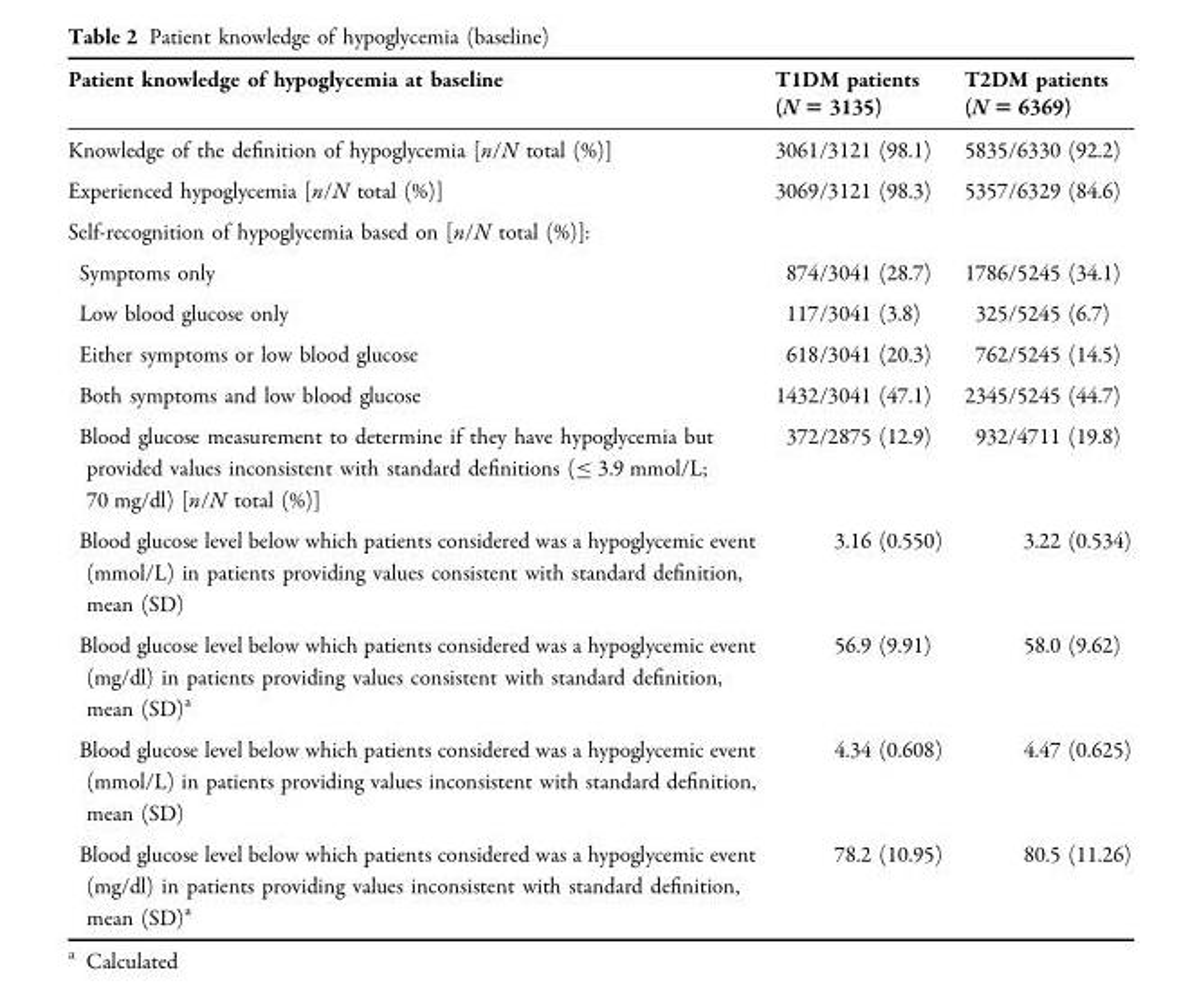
<table><thead><tr><td>Patient knowledge of hypoglycemia at baseline</td><td>T1DM patients (N = 3135)</td><td>T2DM patients (N = 6369)</td></tr></thead><tbody><tr><td>Knowledge of the definition of hypoglycemia [n/N total (%)]</td><td>3061/3121 (98.1)</td><td>5835/6330 (92.2)</td></tr><tr><td>Experienced hypoglycemia [n/N total (%)]</td><td>3069/3121 (98.3)</td><td>5357/6329 (84.6)</td></tr><tr><td colspan="3">Self-recognition of hypoglycemia based on [n/N total (%)]:</td></tr><tr><td>Symptoms only</td><td>874/3041 (28.7)</td><td>1786/5245 (34.1)</td></tr><tr><td>Low blood glucose only</td><td>117/3041 (3.8)</td><td>325/5245 (6.7)</td></tr><tr><td>Either symptoms or low blood glucose</td><td>618/3041 (20.3)</td><td>762/5245 (14.5)</td></tr><tr><td>Both symptoms and low blood glucose</td><td>1432/3041 (47.1)</td><td>2345/5245 (44.7)</td></tr><tr><td>Blood glucose measurement to determine if they have hypoglycemia but provided values inconsistent with standard definitions (≤ 3.9 mmol/L; 70 mg/dl) [n/N total (%)]</td><td>372/2875 (12.9)</td><td>932/4711 (19.8)</td></tr><tr><td>Blood glucose level below which patients considered was a hypoglycemic event (mmol/L) in patients providing values consistent with standard definition, mean (SD)</td><td>3.16 (0.550)</td><td>3.22 (0.534)</td></tr><tr><td>Blood glucose level below which patients considered was a hypoglycemic event (mg/dl) in patients providing values consistent with standard definition, mean (SD)<sup>a</sup></td><td>56.9 (9.91)</td><td>58.0 (9.62)</td></tr><tr><td>Blood glucose level below which patients considered was a hypoglycemic event (mmol/L) in patients providing values inconsistent with standard definition, mean (SD)</td><td>4.34 (0.608)</td><td>4.47 (0.625)</td></tr><tr><td>Blood glucose level below which patients considered was a hypoglycemic event (mg/dl) in patients providing values inconsistent with standard definition, mean (SD)<sup>a</sup></td><td>78.2 (10.95)</td><td>80.5 (11.26)</td></tr></tbody></table>